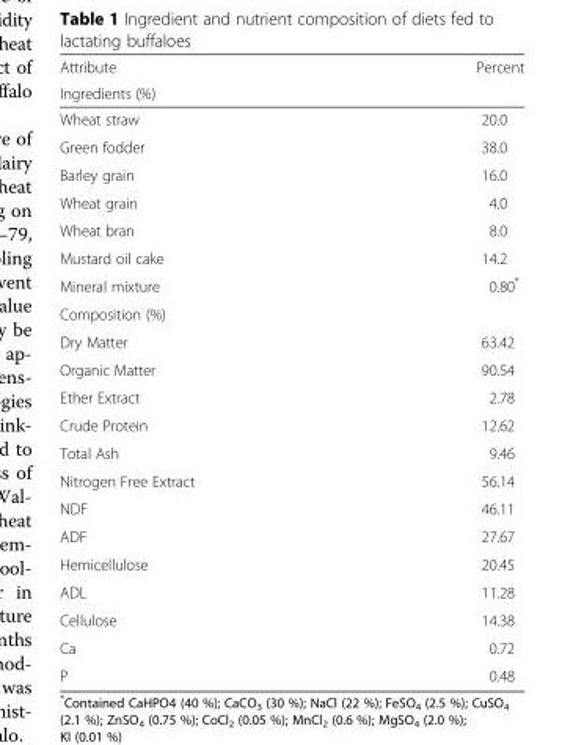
<table><thead><tr><td>Attribute</td><td>Percent</td></tr><tr><td colspan="2">Ingredients (%)</td></tr></thead><tbody><tr><td>Wheat straw</td><td>20.0</td></tr><tr><td>Green fodder</td><td>38.0</td></tr><tr><td>Barley grain</td><td>16.0</td></tr><tr><td>Wheat grain</td><td>4.0</td></tr><tr><td>Wheat bran</td><td>8.0</td></tr><tr><td>Mustard oil cake</td><td>14.2</td></tr><tr><td>Mineral mixture</td><td>0.80*</td></tr><tr><td colspan="2">Composition (%)</td></tr><tr><td>Dry Matter</td><td>63.42</td></tr><tr><td>Organic Matter</td><td>90.54</td></tr><tr><td>Ether Extract</td><td>2.78</td></tr><tr><td>Crude Protein</td><td>12.62</td></tr><tr><td>Total Ash</td><td>9.46</td></tr><tr><td>Nitrogen Free Extract</td><td>56.14</td></tr><tr><td>NDF</td><td>46.11</td></tr><tr><td>ADF</td><td>27.67</td></tr><tr><td>Hemicellulose</td><td>20.45</td></tr><tr><td>ADL</td><td>11.28</td></tr><tr><td>Cellulose</td><td>14.38</td></tr><tr><td>Ca</td><td>0.72</td></tr><tr><td>P</td><td>0.48</td></tr></tbody></table>